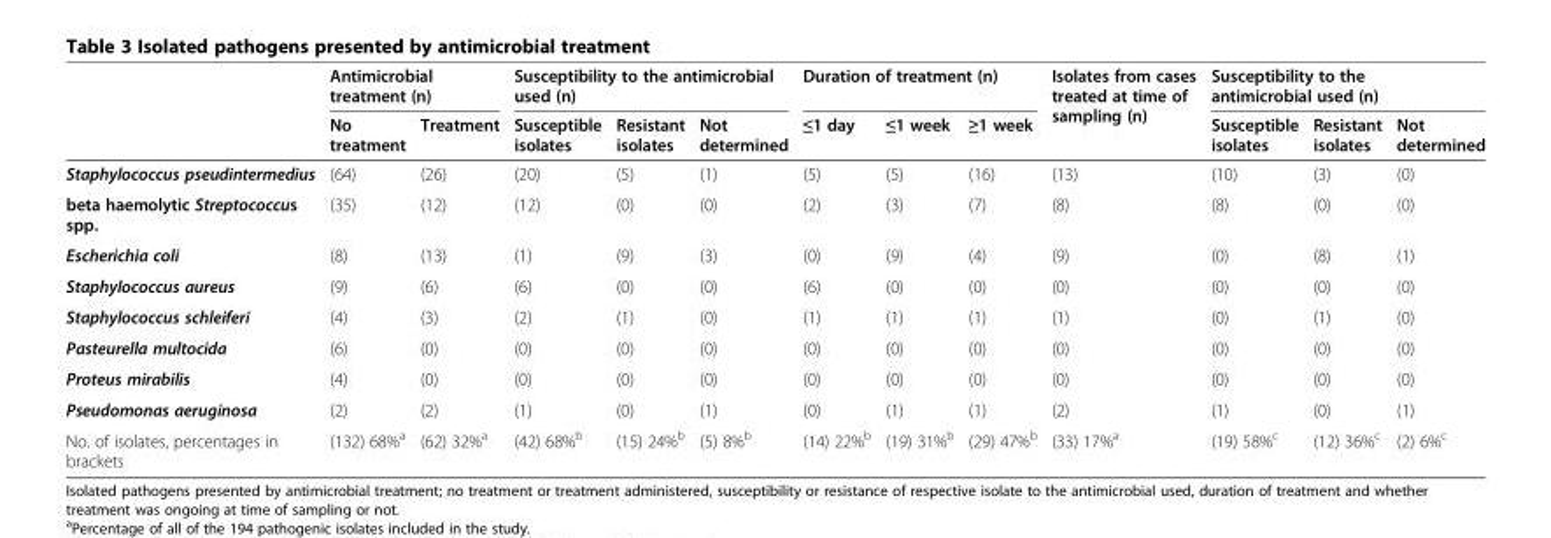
<table><thead><tr><td rowspan="2"></td><td colspan="2">Antimicrobial treatment (n)</td><td colspan="3">Susceptibility to the antimicrobial used (n)</td><td colspan="3">Duration of treatment (n)</td><td rowspan="2">Isolates from cases treated at time of sampling (n)</td><td colspan="3">Susceptibility to the antimicrobial used (n)</td></tr><tr><td>No treatment</td><td>Treatment</td><td>Susceptible isolates</td><td>Resistant isolates</td><td>Not determined</td><td>≤1 day</td><td>≤1 week</td><td>≥1 week</td><td>Susceptible isolates</td><td>Resistant isolates</td><td>Not determined</td></tr></thead><tbody><tr><td>Staphylococcus pseudintermedius</td><td>(64)</td><td>(26)</td><td>(20)</td><td>(5)</td><td>(1)</td><td>(5)</td><td>(5)</td><td>(16)</td><td>(13)</td><td>(10)</td><td>(3)</td><td>(0)</td></tr><tr><td>beta haemolytic Streptococcus spp.</td><td>(35)</td><td>(12)</td><td>(12)</td><td>(0)</td><td>(0)</td><td>(2)</td><td>(3)</td><td>(7)</td><td>(8)</td><td>(8)</td><td>(0)</td><td>(0)</td></tr><tr><td>Escherichia coli</td><td>(8)</td><td>(13)</td><td>(1)</td><td>(9)</td><td>(3)</td><td>(0)</td><td>(9)</td><td>(4)</td><td>(9)</td><td>(0)</td><td>(8)</td><td>(1)</td></tr><tr><td>Staphylococcus aureus</td><td>(9)</td><td>(6)</td><td>(6)</td><td>(0)</td><td>(0)</td><td>(6)</td><td>(0)</td><td>(0)</td><td>(0)</td><td>(0)</td><td>(0)</td><td>(0)</td></tr><tr><td>Staphylococcus schleiferi</td><td>(4)</td><td>(3)</td><td>(2)</td><td>(1)</td><td>(0)</td><td>(1)</td><td>(1)</td><td>(1)</td><td>(1)</td><td>(0)</td><td>(1)</td><td>(0)</td></tr><tr><td>Pasteurella multocida</td><td>(6)</td><td>(0)</td><td>(0)</td><td>(0)</td><td>(0)</td><td>(0)</td><td>(0)</td><td>(0)</td><td>(0)</td><td>(0)</td><td>(0)</td><td>(0)</td></tr><tr><td>Proteus mirabilis</td><td>(4)</td><td>(0)</td><td>(0)</td><td>(0)</td><td>(0)</td><td>(0)</td><td>(0)</td><td>(0)</td><td>(0)</td><td>(0)</td><td>(0)</td><td>(0)</td></tr><tr><td>Pseudomonas aeruginosa</td><td>(2)</td><td>(2)</td><td>(1)</td><td>(0)</td><td>(1)</td><td>(0)</td><td>(1)</td><td>(1)</td><td>(2)</td><td>(1)</td><td>(0)</td><td>(1)</td></tr><tr><td>No. of isolates, percentages in brackets</td><td>(132) 68%<sup>a</sup></td><td>(62) 32%<sup>a</sup></td><td>(42) 68%<sup>b</sup></td><td>(15) 24%<sup>b</sup></td><td>(5) 8%<sup>b</sup></td><td>(14) 22%<sup>b</sup></td><td>(19) 31%<sup>b</sup></td><td>(29) 47%<sup>b</sup></td><td>(33) 17%<sup>a</sup></td><td>(19) 58%<sup>c</sup></td><td>(12) 36%<sup>c</sup></td><td>(2) 6%<sup>c</sup></td></tr></tbody></table>